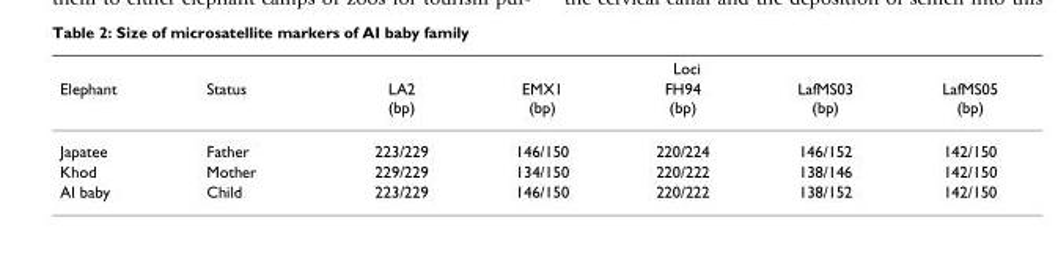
<table><thead><tr><td rowspan="2">Elephant</td><td rowspan="2">Status</td><td colspan="5">Loci</td></tr><tr><td>LA2 (bp)</td><td>EMX1 (bp)</td><td>FH94 (bp)</td><td>LafMS03 (bp)</td><td>LafMS05 (bp)</td></tr></thead><tbody><tr><td>Japatee</td><td>Father</td><td>223/229</td><td>146/150</td><td>220/224</td><td>146/152</td><td>142/150</td></tr><tr><td>Khod</td><td>Mother</td><td>229/229</td><td>134/150</td><td>220/222</td><td>138/146</td><td>142/150</td></tr><tr><td>AI baby</td><td>Child</td><td>223/229</td><td>146/150</td><td>220/222</td><td>138/152</td><td>142/150</td></tr></tbody></table>